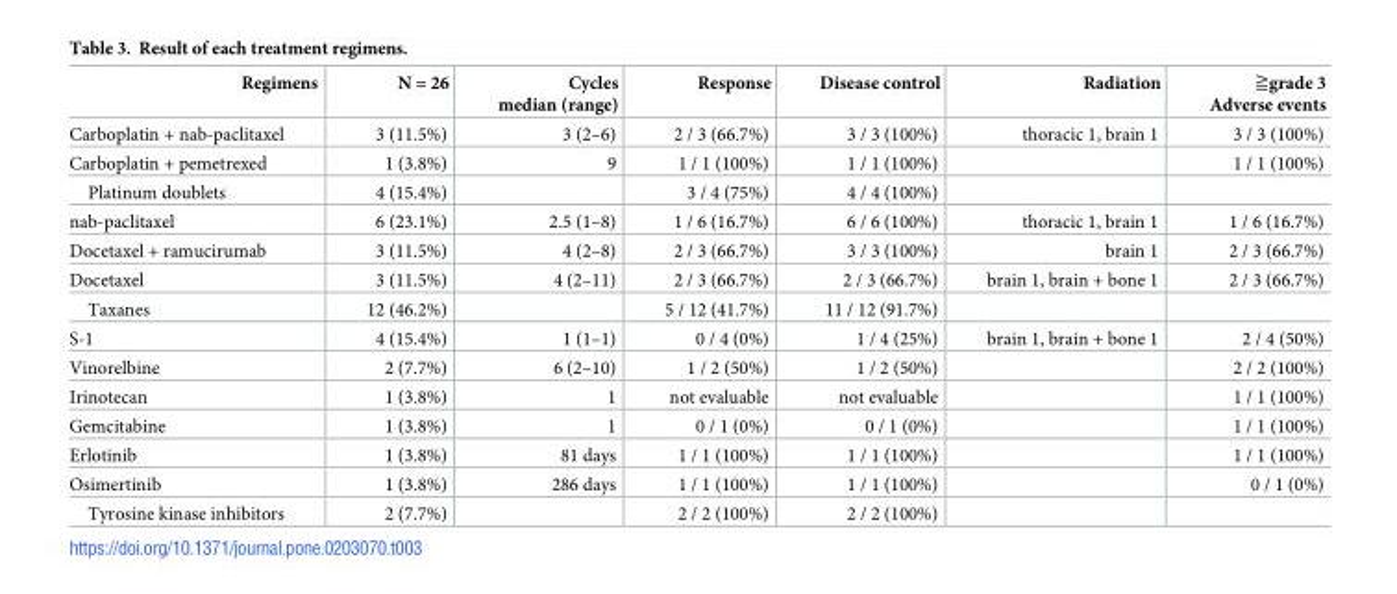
<table><thead><tr><td>Regimens</td><td>N = 26</td><td>Cycles median (range)</td><td>Response</td><td>Disease control</td><td>Radiation</td><td>≧grade 3 Adverse events</td></tr></thead><tbody><tr><td>Carboplatin + nab-paclitaxel</td><td>3 (11.5%)</td><td>3 (2–6)</td><td>2 / 3 (66.7%)</td><td>3 / 3 (100%)</td><td>thoracic 1, brain 1</td><td>3 / 3 (100%)</td></tr><tr><td>Carboplatin + pemetrexed</td><td>1 (3.8%)</td><td>9</td><td>1 / 1 (100%)</td><td>1 / 1 (100%)</td><td></td><td>1 / 1 (100%)</td></tr><tr><td>Platinum doublets</td><td>4 (15.4%)</td><td></td><td>3 / 4 (75%)</td><td>4 / 4 (100%)</td><td></td><td></td></tr><tr><td>nab-paclitaxel</td><td>6 (23.1%)</td><td>2.5 (1–8)</td><td>1 / 6 (16.7%)</td><td>6 / 6 (100%)</td><td>thoracic 1, brain 1</td><td>1 / 6 (16.7%)</td></tr><tr><td>Docetaxel + ramucirumab</td><td>3 (11.5%)</td><td>4 (2–8)</td><td>2 / 3 (66.7%)</td><td>3 / 3 (100%)</td><td>brain 1</td><td>2 / 3 (66.7%)</td></tr><tr><td>Docetaxel</td><td>3 (11.5%)</td><td>4 (2–11)</td><td>2 / 3 (66.7%)</td><td>2 / 3 (66.7%)</td><td>brain 1, brain + bone 1</td><td>2 / 3 (66.7%)</td></tr><tr><td>Taxanes</td><td>12 (46.2%)</td><td></td><td>5 / 12 (41.7%)</td><td>11 / 12 (91.7%)</td><td></td><td></td></tr><tr><td>S-1</td><td>4 (15.4%)</td><td>1 (1–1)</td><td>0 / 4 (0%)</td><td>1 / 4 (25%)</td><td>brain 1, brain + bone 1</td><td>2 / 4 (50%)</td></tr><tr><td>Vinorelbine</td><td>2 (7.7%)</td><td>6 (2–10)</td><td>1 / 2 (50%)</td><td>1 / 2 (50%)</td><td></td><td>2 / 2 (100%)</td></tr><tr><td>Irinotecan</td><td>1 (3.8%)</td><td>1</td><td>not evaluable</td><td>not evaluable</td><td></td><td>1 / 1 (100%)</td></tr><tr><td>Gemcitabine</td><td>1 (3.8%)</td><td>1</td><td>0 / 1 (0%)</td><td>0 / 1 (0%)</td><td></td><td>1 / 1 (100%)</td></tr><tr><td>Erlotinib</td><td>1 (3.8%)</td><td>81 days</td><td>1 / 1 (100%)</td><td>1 / 1 (100%)</td><td></td><td>1 / 1 (100%)</td></tr><tr><td>Osimertinib</td><td>1 (3.8%)</td><td>286 days</td><td>1 / 1 (100%)</td><td>1 / 1 (100%)</td><td></td><td>0 / 1 (0%)</td></tr><tr><td>Tyrosine kinase inhibitors</td><td>2 (7.7%)</td><td></td><td>2 / 2 (100%)</td><td>2 / 2 (100%)</td><td></td><td></td></tr></tbody></table>